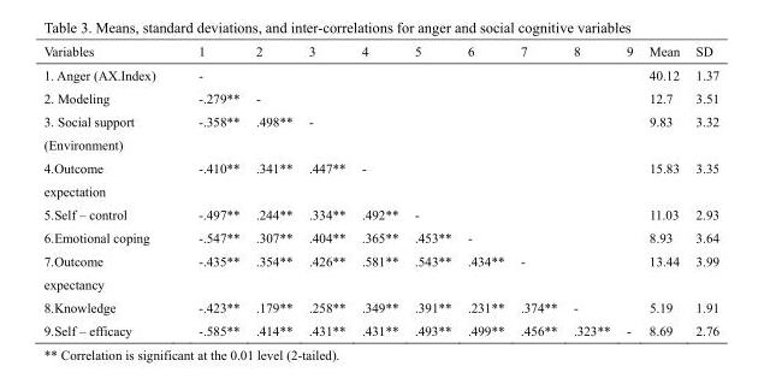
<table><thead><tr><td>Variables</td><td>1</td><td>2</td><td>3</td><td>4</td><td>5</td><td>6</td><td>7</td><td>8</td><td>9</td><td>Mean</td><td>SD</td></tr></thead><tbody><tr><td>1. Anger (AX.Index)</td><td>-</td><td></td><td></td><td></td><td></td><td></td><td></td><td></td><td></td><td>40.12</td><td>1.37</td></tr><tr><td>2. Modeling</td><td>-.279**</td><td>-</td><td></td><td></td><td></td><td></td><td></td><td></td><td></td><td>12.7</td><td>3.51</td></tr><tr><td>3. Social support (Environment)</td><td>-.358**</td><td>.498**</td><td>-</td><td></td><td></td><td></td><td></td><td></td><td></td><td>9.83</td><td>3.32</td></tr><tr><td>4.Outcome expectation</td><td>-.410**</td><td>.341**</td><td>.447**</td><td>-</td><td></td><td></td><td></td><td></td><td></td><td>15.83</td><td>3.35</td></tr><tr><td>5.Self – control</td><td>-.497**</td><td>.244**</td><td>.334**</td><td>.492**</td><td>-</td><td></td><td></td><td></td><td></td><td>11.03</td><td>2.93</td></tr><tr><td>6.Emotional coping</td><td>-.547**</td><td>.307**</td><td>.404**</td><td>.365**</td><td>.453**</td><td>-</td><td></td><td></td><td></td><td>8.93</td><td>3.64</td></tr><tr><td>7.Outcome expectancy</td><td>-.435**</td><td>.354**</td><td>.426**</td><td>.581**</td><td>.543**</td><td>.434**</td><td>-</td><td></td><td></td><td>13.44</td><td>3.99</td></tr><tr><td>8.Knowledge</td><td>-.423**</td><td>.179**</td><td>.258**</td><td>.349**</td><td>.391**</td><td>.231**</td><td>.374**</td><td>-</td><td></td><td>5.19</td><td>1.91</td></tr><tr><td>9.Self – efficacy</td><td>-.585**</td><td>.414**</td><td>.431**</td><td>.431**</td><td>.493**</td><td>.499**</td><td>.456**</td><td>.323**</td><td>-</td><td>8.69</td><td>2.76</td></tr></tbody></table>